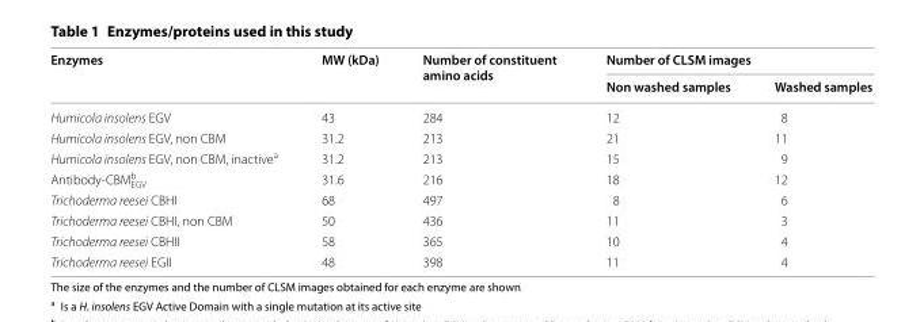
<table><thead><tr><td rowspan="2">Enzymes</td><td rowspan="2">MW (kDa)</td><td rowspan="2">Number of constituent amino acids</td><td colspan="2">Number of CLSM images</td></tr><tr><td>Non washed samples</td><td>Washed samples</td></tr></thead><tbody><tr><td>Humicola insolens EGV</td><td>43</td><td>284</td><td>12</td><td>8</td></tr><tr><td>Humicola insolens EGV, non CBM</td><td>31.2</td><td>213</td><td>21</td><td>11</td></tr><tr><td>Humicola insolens EGV, non CBM, inactive<sup>a</sup></td><td>31.2</td><td>213</td><td>15</td><td>9</td></tr><tr><td>Antibody-CBMb EGV</td><td>31.6</td><td>216</td><td>18</td><td>12</td></tr><tr><td>Trichoderma reesei CBHI</td><td>68</td><td>497</td><td>8</td><td>6</td></tr><tr><td>Trichoderma reesei CBHI, non CBM</td><td>50</td><td>436</td><td>11</td><td>3</td></tr><tr><td>Trichoderma reesei CBHII</td><td>58</td><td>365</td><td>10</td><td>4</td></tr><tr><td>Trichoderma reesei EGII</td><td>48</td><td>398</td><td>11</td><td>4</td></tr></tbody></table>